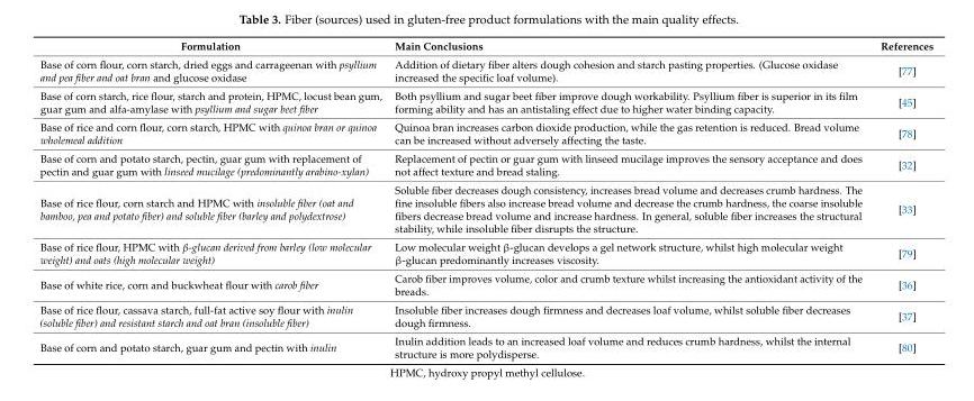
<table><thead><tr><td>Formulation</td><td>Main Conclusions</td><td>References</td></tr></thead><tbody><tr><td>Base of corn flour, corn starch, dried eggs and carrageenan with psyllium and pea fiber and oat bran and glucose oxidase</td><td>Addition of dietary fiber alters dough cohesion and starch pasting properties. (Glucose oxidase increased the specific loaf volume).</td><td>[77]</td></tr><tr><td>Base of corn starch, rice flour, starch and protein, HPMC, locust bean gum, guar gum and alfa-amylase with psyllium and sugar beet fiber</td><td>Both psyllium and sugar beet fiber improve dough workability. Psyllium fiber is superior in its film forming ability and has an antistaling effect due to higher water binding capacity.</td><td>[45]</td></tr><tr><td>Base of rice and corn flour, corn starch, HPMC with quinoa bran or quinoa wholemeal addition</td><td>Quinoa bran increases carbon dioxide production, while the gas retention is reduced. Bread volume can be increased without adversely affecting the taste.</td><td>[78]</td></tr><tr><td>Base of corn and potato starch, pectin, guar gum with replacement of pectin and guar gum with linseed mucilage (predominantly arabino-xylan)</td><td>Replacement of pectin or guar gum with linseed mucilage improves the sensory acceptance and does not affect texture and bread staling.</td><td>[32]</td></tr><tr><td>Base of rice flour, corn starch and HPMC with insoluble fiber (oat and bamboo, pea and potato fiber) and soluble fiber (barley and polydextrose)</td><td>Soluble fiber decreases dough consistency, increases bread volume and decreases crumb hardness. The fine insoluble fibers also increase bread volume and decrease the crumb hardness, the coarse insoluble fibers decrease bread volume and increase hardness. In general, soluble fiber increases the structural stability, while insoluble fiber disrupts the structure.</td><td>[33]</td></tr><tr><td>Base of rice flour, HPMC with β-glucan derived from barley (low molecular weight) and oats (high molecular weight)</td><td>Low molecular weight β-glucan develops a gel network structure, whilst high molecular weight β-glucan predominantly increases viscosity.</td><td>[79]</td></tr><tr><td>Base of white rice, corn and buckwheat flour with carob fiber</td><td>Carob fiber improves volume, color and crumb texture whilst increasing the antioxidant activity of the breads.</td><td>[36]</td></tr><tr><td>Base of rice flour, cassava starch, full-fat active soy flour with inulin (soluble fiber) and resistant starch and oat bran (insoluble fiber)</td><td>Insoluble fiber increases dough firmness and decreases loaf volume, whilst soluble fiber decreases dough firmness.</td><td>[37]</td></tr><tr><td>Base of corn and potato starch, guar gum and pectin with inulin</td><td>Inulin addition leads to an increased loaf volume and reduces crumb hardness, whilst the internal structure is more polydisperse.</td><td>[80]</td></tr></tbody></table>